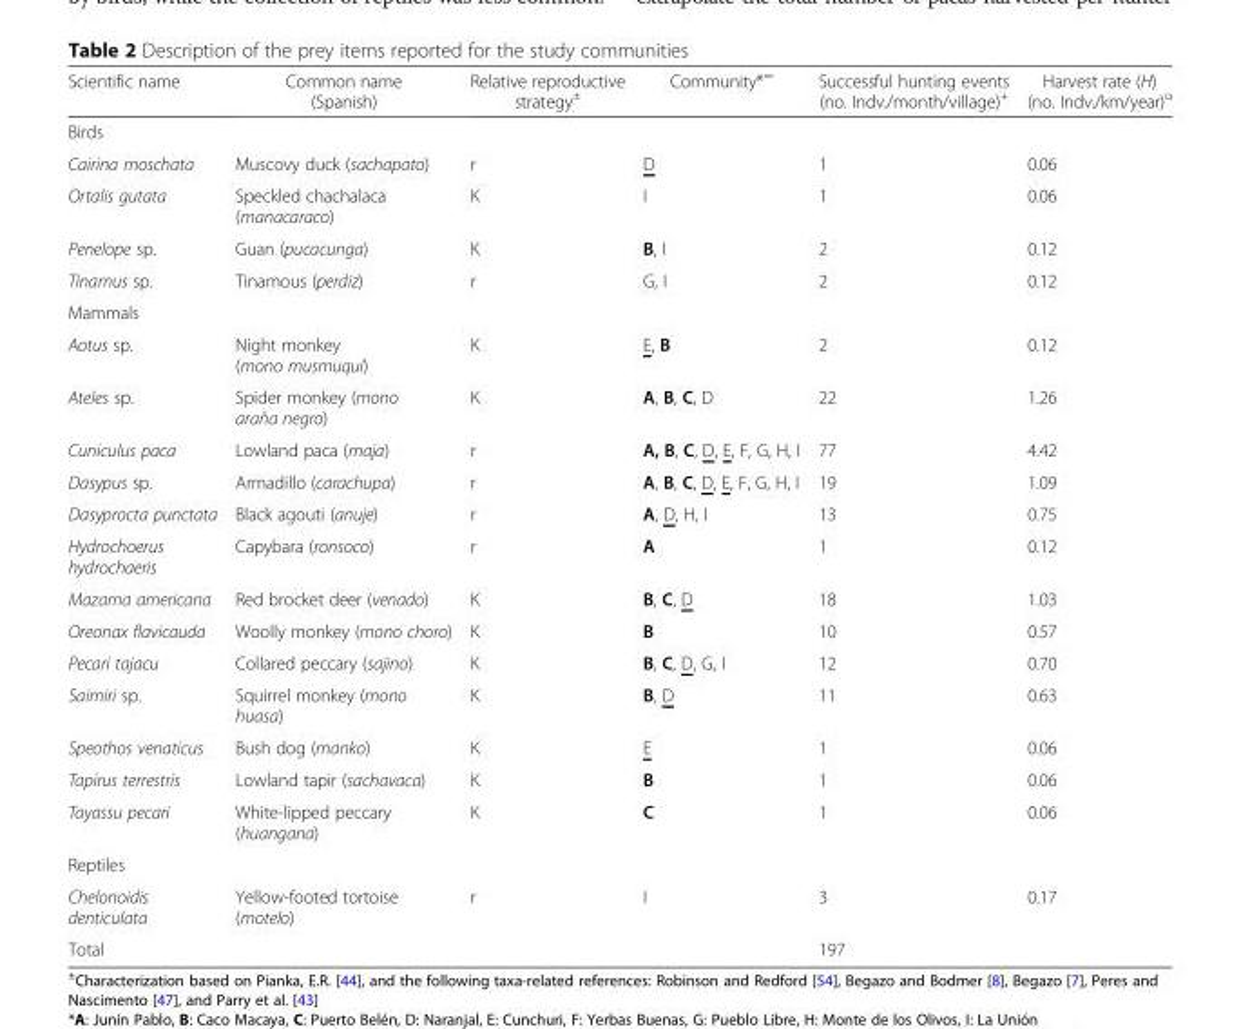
<table><thead><tr><td>Scientific name</td><td>Common name (Spanish)</td><td>Relative reproductive strategy<sup>±</sup></td><td>Community*<sup>∞</sup></td><td>Successful hunting events (no. Indv./month/village)<sup>+</sup></td><td>Harvest rate (H) (no. Indv./km/year)<sup>α</sup></td></tr></thead><tbody><tr><td colspan="6">Birds</td></tr><tr><td>Cairina moschata</td><td>Muscovy duck (sachapato)</td><td>r</td><td>D</td><td>1</td><td>0.06</td></tr><tr><td>Ortalis gutata</td><td>Speckled chachalaca (manacaraco)</td><td>K</td><td>I</td><td>1</td><td>0.06</td></tr><tr><td>Penelope sp.</td><td>Guan (pucacunga)</td><td>K</td><td>B, I</td><td>2</td><td>0.12</td></tr><tr><td>Tinamus sp.</td><td>Tinamous (perdiz)</td><td>r</td><td>G, I</td><td>2</td><td>0.12</td></tr><tr><td colspan="6">Mammals</td></tr><tr><td>Aotus sp.</td><td>Night monkey (mono musmuqui)</td><td>K</td><td>E, B</td><td>2</td><td>0.12</td></tr><tr><td>Ateles sp.</td><td>Spider monkey (mono araña negro)</td><td>K</td><td>A, B, C, D</td><td>22</td><td>1.26</td></tr><tr><td>Cuniculus paca</td><td>Lowland paca (maja)</td><td>r</td><td>A, B, C, D, E, F, G, H, I</td><td>77</td><td>4.42</td></tr><tr><td>Dasypus sp.</td><td>Armadillo (carachupa)</td><td>r</td><td>A, B, C, D, E, F, G, H, I</td><td>19</td><td>1.09</td></tr><tr><td>Dasyprocta punctata</td><td>Black agouti (anuje)</td><td>r</td><td>A, D, H, I</td><td>13</td><td>0.75</td></tr><tr><td>Hydrochoerus hydrochaeris</td><td>Capybara (ronsoco)</td><td>r</td><td>A</td><td>1</td><td>0.12</td></tr><tr><td>Mazama americana</td><td>Red brocket deer (venado)</td><td>K</td><td>B, C, D</td><td>18</td><td>1.03</td></tr><tr><td>Oreonax flavicauda</td><td>Woolly monkey (mono choro)</td><td>K</td><td>B</td><td>10</td><td>0.57</td></tr><tr><td>Pecari tajacu</td><td>Collared peccary (sajino)</td><td>K</td><td>B, C, D, G, I</td><td>12</td><td>0.70</td></tr><tr><td>Saimiri sp.</td><td>Squirrel monkey (mono huasa)</td><td>K</td><td>B, D</td><td>11</td><td>0.63</td></tr><tr><td>Speothos venaticus</td><td>Bush dog (manko)</td><td>K</td><td>E</td><td>1</td><td>0.06</td></tr><tr><td>Tapirus terrestris</td><td>Lowland tapir (sachavaca)</td><td>K</td><td>B</td><td>1</td><td>0.06</td></tr><tr><td>Tayassu pecari</td><td>White-lipped peccary (huangana)</td><td>K</td><td>C</td><td>1</td><td>0.06</td></tr><tr><td colspan="6">Reptiles</td></tr><tr><td>Chelonoidis denticulata</td><td>Yellow-footed tortoise (motelo)</td><td>r</td><td>I</td><td>3</td><td>0.17</td></tr><tr><td>Total</td><td></td><td></td><td></td><td>197</td><td></td></tr></tbody></table>